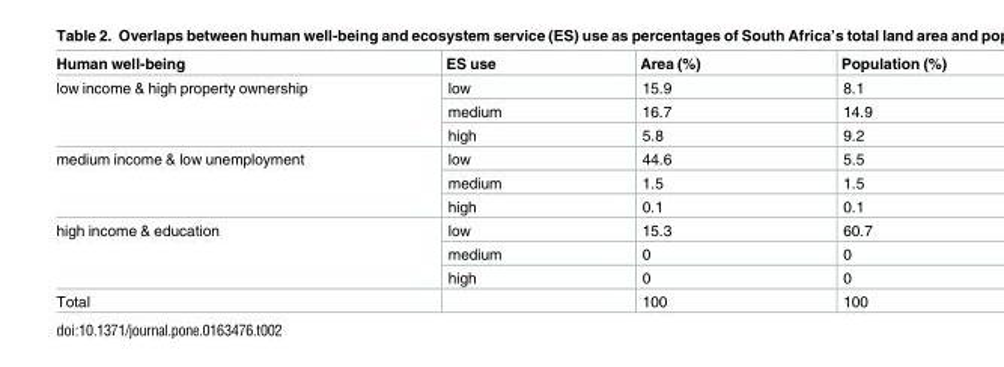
<table><thead><tr><td>Human well-being</td><td>ES use</td><td>Area (%)</td><td>Population (%)</td></tr></thead><tbody><tr><td rowspan="3">low income &amp; high property ownership</td><td>low</td><td>15.9</td><td>8.1</td></tr><tr><td>medium</td><td>16.7</td><td>14.9</td></tr><tr><td>high</td><td>5.8</td><td>9.2</td></tr><tr><td rowspan="3">medium income &amp; low unemployment</td><td>low</td><td>44.6</td><td>5.5</td></tr><tr><td>medium</td><td>1.5</td><td>1.5</td></tr><tr><td>high</td><td>0.1</td><td>0.1</td></tr><tr><td rowspan="3">high income &amp; education</td><td>low</td><td>15.3</td><td>60.7</td></tr><tr><td>medium</td><td>0</td><td>0</td></tr><tr><td>high</td><td>0</td><td>0</td></tr><tr><td>Total</td><td></td><td>100</td><td>100</td></tr></tbody></table>